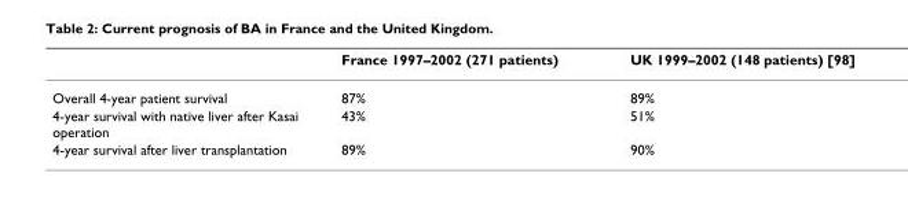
<table><thead><tr><td></td><td>France 1997–2002 (271 patients)</td><td>UK 1999–2002 (148 patients) [98]</td></tr></thead><tbody><tr><td>Overall 4-year patient survival</td><td>87%</td><td>89%</td></tr><tr><td>4-year survival with native liver after Kasai operation</td><td>43%</td><td>51%</td></tr><tr><td>4-year survival after liver transplantation</td><td>89%</td><td>90%</td></tr></tbody></table>